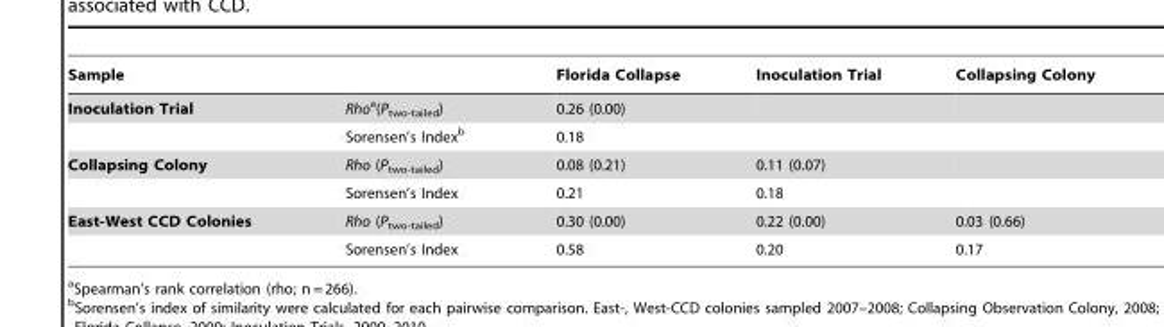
<table><thead><tr><td>Sample</td><td></td><td>Florida Collapse</td><td>Inoculation Trial</td><td>Collapsing Colony</td></tr></thead><tbody><tr><td rowspan="2">Inoculation Trial</td><td>Rhoa(P<sub>two-tailed</sub>)</td><td>0.26 (0.00)</td><td></td><td></td></tr><tr><td>Sorensen’s Index<sup>b</sup></td><td>0.18</td><td></td><td></td></tr><tr><td rowspan="2">Collapsing Colony</td><td>Rho (P<sub>two-tailed</sub>)</td><td>0.08 (0.21)</td><td>0.11 (0.07)</td><td></td></tr><tr><td>Sorensen’s Index</td><td>0.21</td><td>0.18</td><td></td></tr><tr><td rowspan="2">East-West CCD Colonies</td><td>Rho (P<sub>two-tailed</sub>)</td><td>0.30 (0.00)</td><td>0.22 (0.00)</td><td>0.03 (0.66)</td></tr><tr><td>Sorensen’s Index</td><td>0.58</td><td>0.20</td><td>0.17</td></tr></tbody></table>